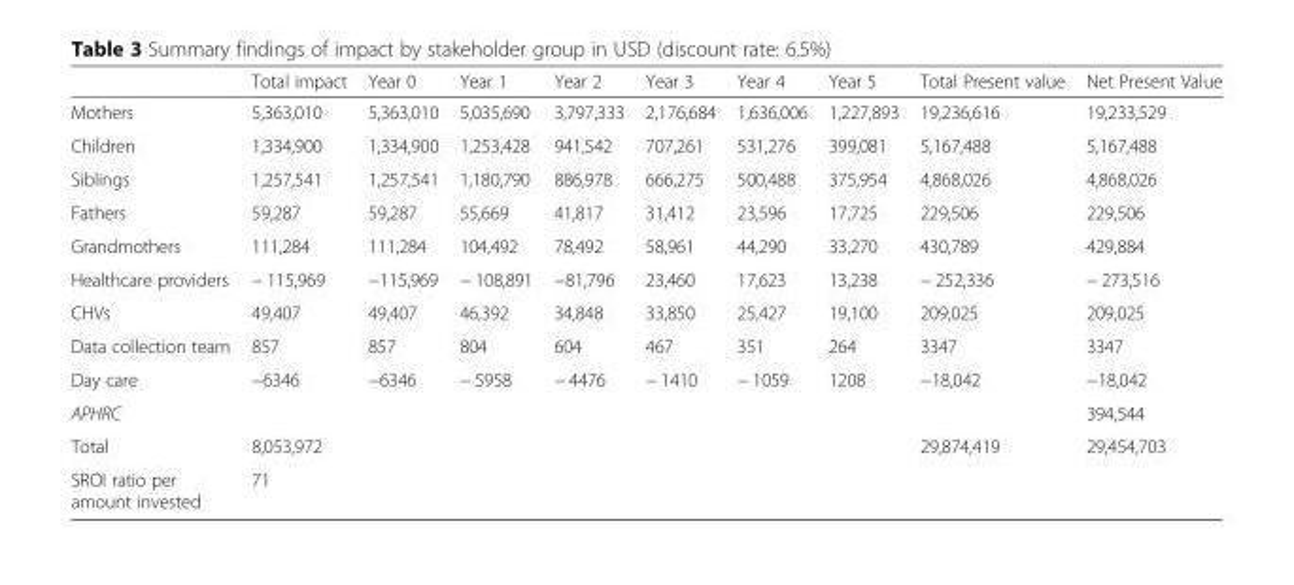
<table><thead><tr><td></td><td>Total impact</td><td>Year 0</td><td>Year 1</td><td>Year 2</td><td>Year 3</td><td>Year 4</td><td>Year 5</td><td>Total Present value</td><td>Net Present Value</td></tr></thead><tbody><tr><td>Mothers</td><td>5,363,010</td><td>5,363,010</td><td>5,035,690</td><td>3,797,333</td><td>2,176,684</td><td>1,636,006</td><td>1,227,893</td><td>19,236,616</td><td>19,233,529</td></tr><tr><td>Children</td><td>1,334,900</td><td>1,334,900</td><td>1,253,428</td><td>941,542</td><td>707,261</td><td>531,276</td><td>399,081</td><td>5,167,488</td><td>5,167,488</td></tr><tr><td>Siblings</td><td>1,257,541</td><td>1,257,541</td><td>1,180,790</td><td>886,978</td><td>666,275</td><td>500,488</td><td>375,954</td><td>4,868,026</td><td>4,868,026</td></tr><tr><td>Fathers</td><td>59,287</td><td>59,287</td><td>55,669</td><td>41,817</td><td>31,412</td><td>23,596</td><td>17,725</td><td>229,506</td><td>229,506</td></tr><tr><td>Grandmothers</td><td>111,284</td><td>111,284</td><td>104,492</td><td>78,492</td><td>58,961</td><td>44,290</td><td>33,270</td><td>430,789</td><td>429,884</td></tr><tr><td>Healthcare providers</td><td>− 115,969</td><td>−115,969</td><td>− 108,891</td><td>−81,796</td><td>23,460</td><td>17,623</td><td>13,238</td><td>− 252,336</td><td>− 273,516</td></tr><tr><td>CHVs</td><td>49,407</td><td>49,407</td><td>46,392</td><td>34,848</td><td>33,850</td><td>25,427</td><td>19,100</td><td>209,025</td><td>209,025</td></tr><tr><td>Data collection team</td><td>857</td><td>857</td><td>804</td><td>604</td><td>467</td><td>351</td><td>264</td><td>3347</td><td>3347</td></tr><tr><td>Day care</td><td>−6346</td><td>−6346</td><td>− 5958</td><td>− 4476</td><td>− 1410</td><td>− 1059</td><td>1208</td><td>−18,042</td><td>−18,042</td></tr><tr><td>APHRC</td><td></td><td></td><td></td><td></td><td></td><td></td><td></td><td></td><td>394,544</td></tr><tr><td>Total</td><td>8,053,972</td><td></td><td></td><td></td><td></td><td></td><td></td><td>29,874,419</td><td>29,454,703</td></tr><tr><td>SROI ratio per amount invested</td><td>71</td><td></td><td></td><td></td><td></td><td></td><td></td><td></td><td></td></tr></tbody></table>